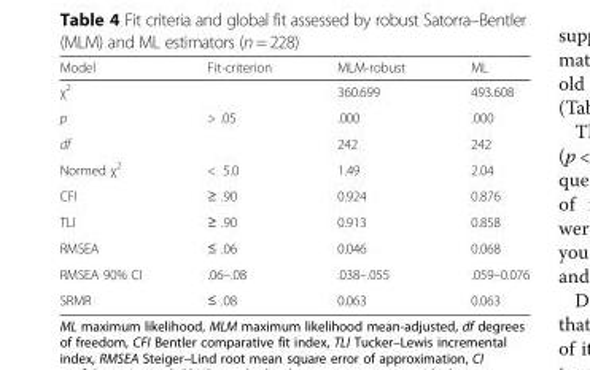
<table><thead><tr><td>Model</td><td>Fit-criterion</td><td>MLM-robust</td><td>ML</td></tr></thead><tbody><tr><td>χ<sup>2</sup></td><td></td><td>360.699</td><td>493.608</td></tr><tr><td>p</td><td>&gt; .05</td><td>.000</td><td>.000</td></tr><tr><td>df</td><td></td><td>242</td><td>242</td></tr><tr><td>Normed χ<sup>2</sup></td><td>&lt; 5.0</td><td>1.49</td><td>2.04</td></tr><tr><td>CFI</td><td>≥ .90</td><td>0.924</td><td>0.876</td></tr><tr><td>TLI</td><td>≥ .90</td><td>0.913</td><td>0.858</td></tr><tr><td>RMSEA</td><td>≤ .06</td><td>0.046</td><td>0.068</td></tr><tr><td>RMSEA 90% CI</td><td>.06–.08</td><td>.038–.055</td><td>.059–0.076</td></tr><tr><td>SRMR</td><td>≤ .08</td><td>0.063</td><td>0.063</td></tr></tbody></table>